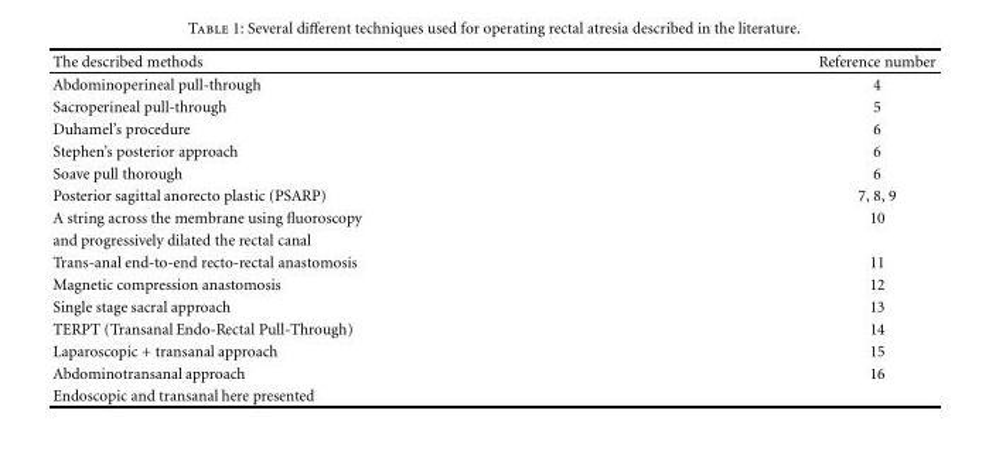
<table><thead><tr><td>The described methods</td><td>Reference number</td></tr></thead><tbody><tr><td>Abdominoperineal pull-through</td><td>4</td></tr><tr><td>Sacroperineal pull-through</td><td>5</td></tr><tr><td>Duhamel’s procedure</td><td>6</td></tr><tr><td>Stephen’s posterior approach</td><td>6</td></tr><tr><td>Soave pull thorough</td><td>6</td></tr><tr><td>Posterior sagittal anorecto plastic (PSARP)</td><td>7, 8, 9</td></tr><tr><td>A string across the membrane using fluoroscopy</td><td>10</td></tr><tr><td colspan="2">and progressively dilated the rectal canal</td></tr><tr><td>Trans-anal end-to-end recto-rectal anastomosis</td><td>11</td></tr><tr><td>Magnetic compression anastomosis</td><td>12</td></tr><tr><td>Single stage sacral approach</td><td>13</td></tr><tr><td>TERPT (Transanal Endo-Rectal Pull-Through)</td><td>14</td></tr><tr><td>Laparoscopic + transanal approach</td><td>15</td></tr><tr><td>Abdominotransanal approach</td><td>16</td></tr><tr><td>Endoscopic and transanal here presented</td><td></td></tr></tbody></table>